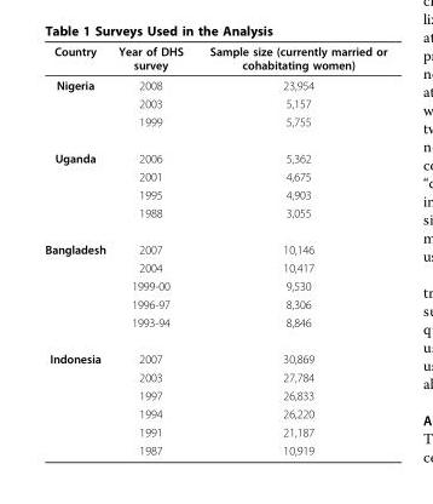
<table><thead><tr><td>Country</td><td>Year of DHS survey</td><td>Sample size (currently married or cohabitating women)</td></tr></thead><tbody><tr><td rowspan="3">Nigeria</td><td>2008</td><td>23,954</td></tr><tr><td>2003</td><td>5,157</td></tr><tr><td>1999</td><td>5,755</td></tr><tr><td rowspan="4">Uganda</td><td>2006</td><td>5,362</td></tr><tr><td>2001</td><td>4,675</td></tr><tr><td>1995</td><td>4,903</td></tr><tr><td>1988</td><td>3,055</td></tr><tr><td rowspan="5">Bangladesh</td><td>2007</td><td>10,146</td></tr><tr><td>2004</td><td>10,417</td></tr><tr><td>1999-00</td><td>9,530</td></tr><tr><td>1996-97</td><td>8,306</td></tr><tr><td>1993-94</td><td>8,846</td></tr><tr><td rowspan="6">Indonesia</td><td>2007</td><td>30,869</td></tr><tr><td>2003</td><td>27,784</td></tr><tr><td>1997</td><td>26,833</td></tr><tr><td>1994</td><td>26,220</td></tr><tr><td>1991</td><td>21,187</td></tr><tr><td>1987</td><td>10,919</td></tr></tbody></table>